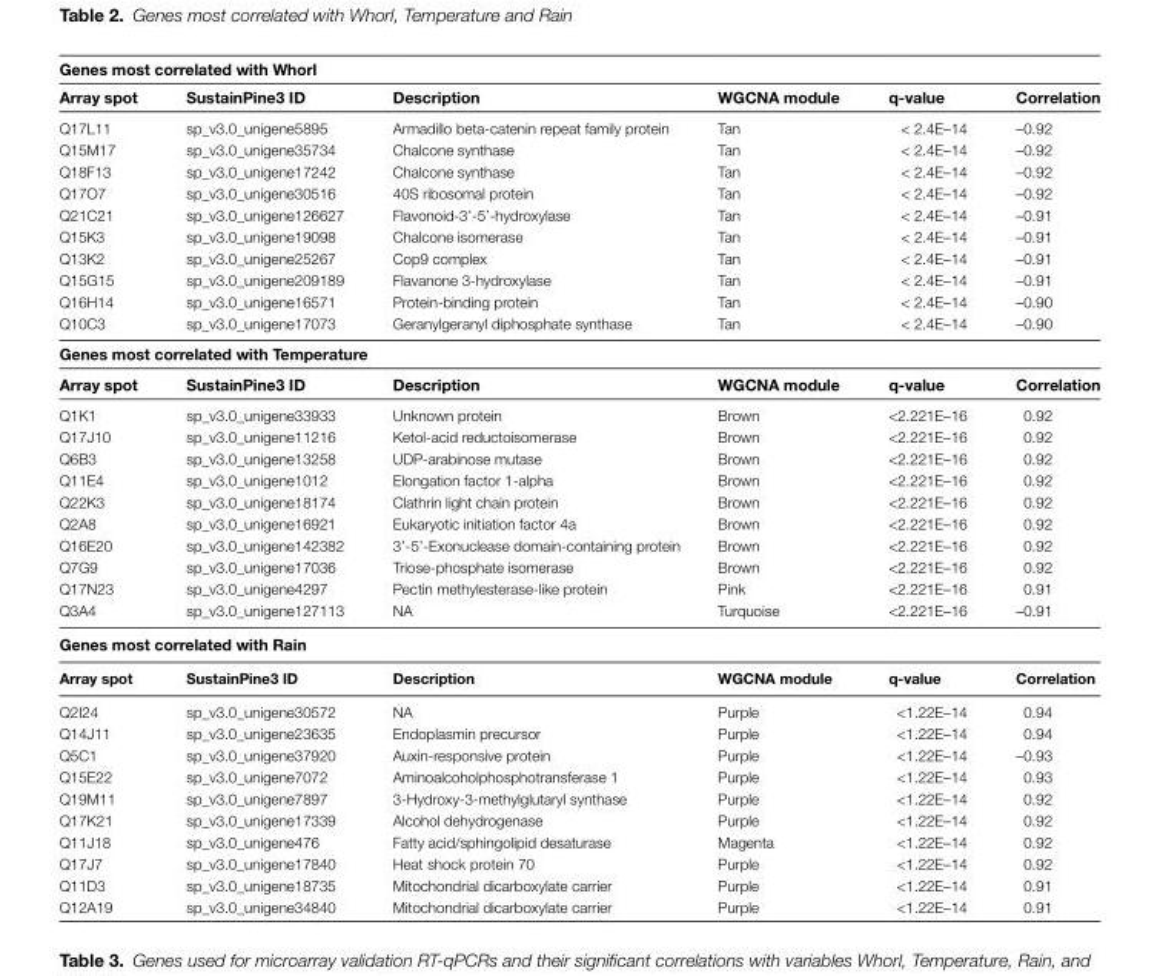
<table><thead><tr><td colspan="6">Genes most correlated with Whorl</td></tr><tr><td>Array spot</td><td>SustainPine3 ID</td><td>Description</td><td>WGCNA module</td><td>q-value</td><td>Correlation</td></tr></thead><tbody><tr><td>Q17L11</td><td>sp_v3.0_unigene5895</td><td>Armadillo beta-catenin repeat family protein</td><td>Tan</td><td>&lt; 2.4E–14</td><td>–0.92</td></tr><tr><td>Q15M17</td><td>sp_v3.0_unigene35734</td><td>Chalcone synthase</td><td>Tan</td><td>&lt; 2.4E–14</td><td>–0.92</td></tr><tr><td>Q18F13</td><td>sp_v3.0_unigene17242</td><td>Chalcone synthase</td><td>Tan</td><td>&lt; 2.4E–14</td><td>–0.92</td></tr><tr><td>Q17O7</td><td>sp_v3.0_unigene30516</td><td>40S ribosomal protein</td><td>Tan</td><td>&lt; 2.4E–14</td><td>–0.92</td></tr><tr><td>Q21C21</td><td>sp_v3.0_unigene126627</td><td>Flavonoid-3’-5’-hydroxylase</td><td>Tan</td><td>&lt; 2.4E–14</td><td>–0.91</td></tr><tr><td>Q15K3</td><td>sp_v3.0_unigene19098</td><td>Chalcone isomerase</td><td>Tan</td><td>&lt; 2.4E–14</td><td>–0.91</td></tr><tr><td>Q13K2</td><td>sp_v3.0_unigene25267</td><td>Cop9 complex</td><td>Tan</td><td>&lt; 2.4E–14</td><td>–0.91</td></tr><tr><td>Q15G15</td><td>sp_v3.0_unigene209189</td><td>Flavanone 3-hydroxylase</td><td>Tan</td><td>&lt; 2.4E–14</td><td>–0.91</td></tr><tr><td>Q16H14</td><td>sp_v3.0_unigene16571</td><td>Protein-binding protein</td><td>Tan</td><td>&lt; 2.4E–14</td><td>–0.90</td></tr><tr><td>Q10C3</td><td>sp_v3.0_unigene17073</td><td>Geranylgeranyl diphosphate synthase</td><td>Tan</td><td>&lt; 2.4E–14</td><td>–0.90</td></tr><tr><td colspan="6">Genes most correlated with Temperature</td></tr><tr><td>Array spot</td><td>SustainPine3 ID</td><td>Description</td><td>WGCNA module</td><td>q-value</td><td>Correlation</td></tr><tr><td>Q1K1</td><td>sp_v3.0_unigene33933</td><td>Unknown protein</td><td>Brown</td><td>&lt;2.221E–16</td><td>0.92</td></tr><tr><td>Q17J10</td><td>sp_v3.0_unigene11216</td><td>Ketol-acid reductoisomerase</td><td>Brown</td><td>&lt;2.221E–16</td><td>0.92</td></tr><tr><td>Q6B3</td><td>sp_v3.0_unigene13258</td><td>UDP-arabinose mutase</td><td>Brown</td><td>&lt;2.221E–16</td><td>0.92</td></tr><tr><td>Q11E4</td><td>sp_v3.0_unigene1012</td><td>Elongation factor 1-alpha</td><td>Brown</td><td>&lt;2.221E–16</td><td>0.92</td></tr><tr><td>Q22K3</td><td>sp_v3.0_unigene18174</td><td>Clathrin light chain protein</td><td>Brown</td><td>&lt;2.221E–16</td><td>0.92</td></tr><tr><td>Q2A8</td><td>sp_v3.0_unigene16921</td><td>Eukaryotic initiation factor 4a</td><td>Brown</td><td>&lt;2.221E–16</td><td>0.92</td></tr><tr><td>Q16E20</td><td>sp_v3.0_unigene142382</td><td>3’-5’-Exonuclease domain-containing protein</td><td>Brown</td><td>&lt;2.221E–16</td><td>0.92</td></tr><tr><td>Q7G9</td><td>sp_v3.0_unigene17036</td><td>Triose-phosphate isomerase</td><td>Brown</td><td>&lt;2.221E–16</td><td>0.92</td></tr><tr><td>Q17N23</td><td>sp_v3.0_unigene4297</td><td>Pectin methylesterase-like protein</td><td>Pink</td><td>&lt;2.221E–16</td><td>0.91</td></tr><tr><td>Q3A4</td><td>sp_v3.0_unigene127113</td><td>NA</td><td>Turquoise</td><td>&lt;2.221E–16</td><td>–0.91</td></tr><tr><td colspan="6">Genes most correlated with Rain</td></tr><tr><td>Array spot</td><td>SustainPine3 ID</td><td>Description</td><td>WGCNA module</td><td>q-value</td><td>Correlation</td></tr><tr><td>Q2I24</td><td>sp_v3.0_unigene30572</td><td>NA</td><td>Purple</td><td>&lt;1.22E–14</td><td>0.94</td></tr><tr><td>Q14J11</td><td>sp_v3.0_unigene23635</td><td>Endoplasmin precursor</td><td>Purple</td><td>&lt;1.22E–14</td><td>0.94</td></tr><tr><td>Q5C1</td><td>sp_v3.0_unigene37920</td><td>Auxin-responsive protein</td><td>Purple</td><td>&lt;1.22E–14</td><td>–0.93</td></tr><tr><td>Q15E22</td><td>sp_v3.0_unigene7072</td><td>Aminoalcoholphosphotransferase 1</td><td>Purple</td><td>&lt;1.22E–14</td><td>0.93</td></tr><tr><td>Q19M11</td><td>sp_v3.0_unigene7897</td><td>3-Hydroxy-3-methylglutaryl synthase</td><td>Purple</td><td>&lt;1.22E–14</td><td>0.92</td></tr><tr><td>Q17K21</td><td>sp_v3.0_unigene17339</td><td>Alcohol dehydrogenase</td><td>Purple</td><td>&lt;1.22E–14</td><td>0.92</td></tr><tr><td>Q11J18</td><td>sp_v3.0_unigene476</td><td>Fatty acid/sphingolipid desaturase</td><td>Magenta</td><td>&lt;1.22E–14</td><td>0.92</td></tr><tr><td>Q17J7</td><td>sp_v3.0_unigene17840</td><td>Heat shock protein 70</td><td>Purple</td><td>&lt;1.22E–14</td><td>0.92</td></tr><tr><td>Q11D3</td><td>sp_v3.0_unigene18735</td><td>Mitochondrial dicarboxylate carrier</td><td>Purple</td><td>&lt;1.22E–14</td><td>0.91</td></tr><tr><td>Q12A19</td><td>sp_v3.0_unigene34840</td><td>Mitochondrial dicarboxylate carrier</td><td>Purple</td><td>&lt;1.22E–14</td><td>0.91</td></tr></tbody></table>